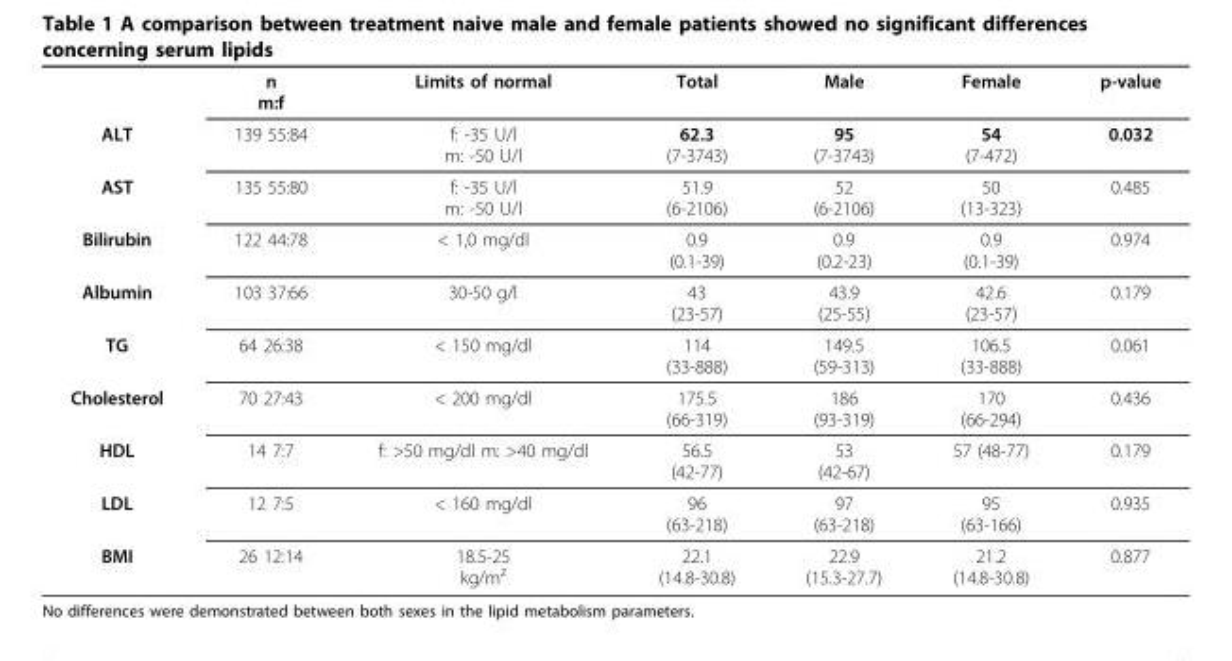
<table><thead><tr><td></td><td>n m:f</td><td>Limits of normal</td><td>Total</td><td>Male</td><td>Female</td><td>p-value</td></tr></thead><tbody><tr><td>ALT</td><td>139 55:84</td><td>f: -35 U/l m: -50 U/l</td><td>62.3 (7-3743)</td><td>95 (7-3743)</td><td>54 (7-472)</td><td>0.032</td></tr><tr><td>AST</td><td>135 55:80</td><td>f: -35 U/l m: -50 U/l</td><td>51.9 (6-2106)</td><td>52 (6-2106)</td><td>50 (13-323)</td><td>0.485</td></tr><tr><td>Bilirubin</td><td>122 44:78</td><td>&lt; 1,0 mg/dl</td><td>0.9 (0.1-39)</td><td>0.9 (0.2-23)</td><td>0.9 (0.1-39)</td><td>0.974</td></tr><tr><td>Albumin</td><td>103 37:66</td><td>30-50 g/l</td><td>43 (23-57)</td><td>43.9 (25-55)</td><td>42.6 (23-57)</td><td>0.179</td></tr><tr><td>TG</td><td>64 26:38</td><td>&lt; 150 mg/dl</td><td>114 (33-888)</td><td>149.5 (59-313)</td><td>106.5 (33-888)</td><td>0.061</td></tr><tr><td>Cholesterol</td><td>70 27:43</td><td>&lt; 200 mg/dl</td><td>175.5 (66-319)</td><td>186 (93-319)</td><td>170 (66-294)</td><td>0.436</td></tr><tr><td>HDL</td><td>14 7:7</td><td>f: &gt;50 mg/dl m: &gt;40 mg/dl</td><td>56.5 (42-77)</td><td>53 (42-67)</td><td>57 (48-77)</td><td>0.179</td></tr><tr><td>LDL</td><td>12 7:5</td><td>&lt; 160 mg/dl</td><td>96 (63-218)</td><td>97 (63-218)</td><td>95 (63-166)</td><td>0.935</td></tr><tr><td>BMI</td><td>26 12:14</td><td>18.5-25 kg/m²</td><td>22.1 (14.8-30.8)</td><td>22.9 (15.3-27.7)</td><td>21.2 (14.8-30.8)</td><td>0.877</td></tr></tbody></table>